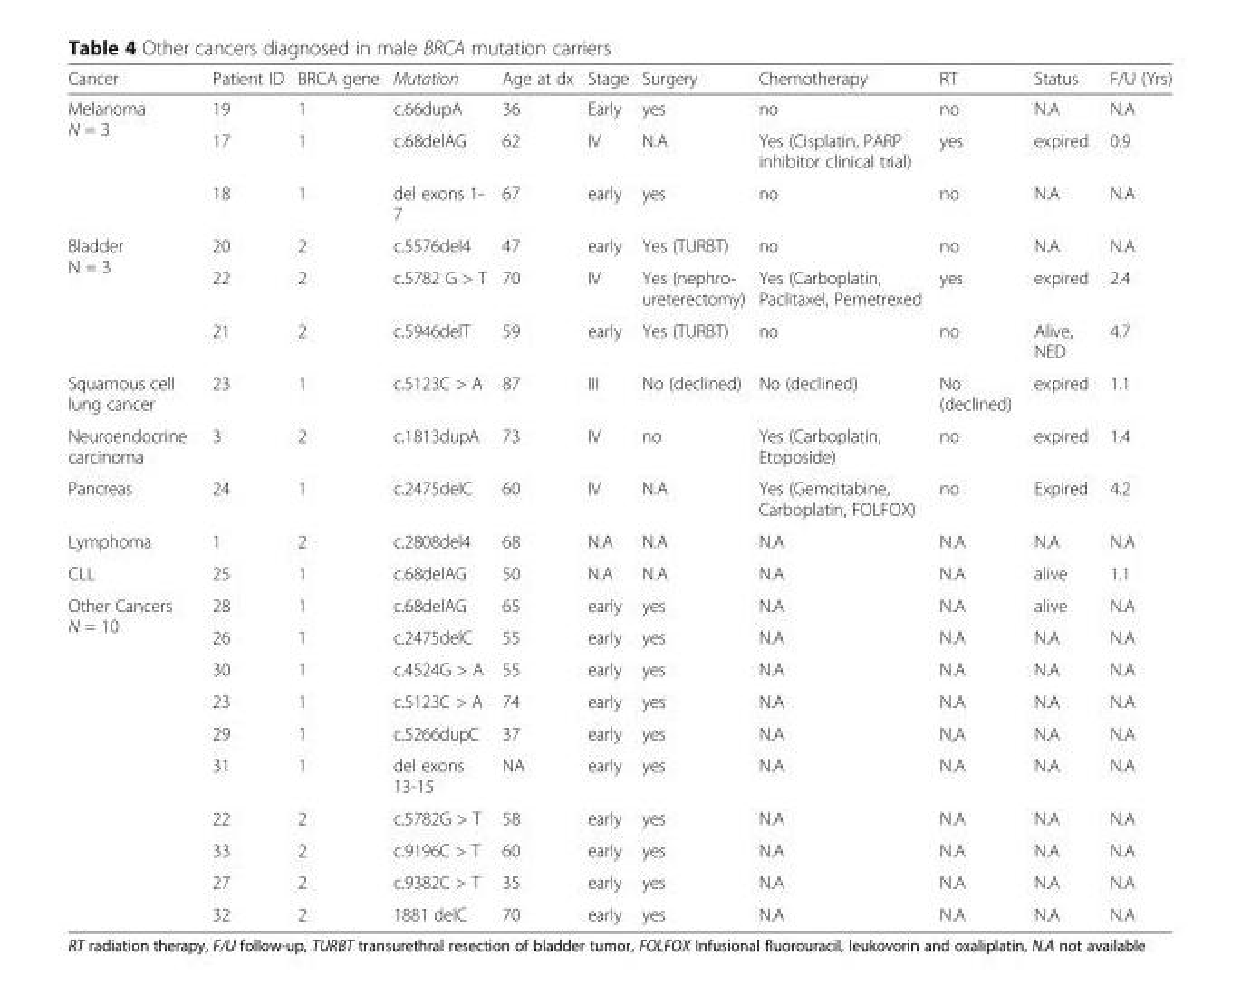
<table><thead><tr><td>Cancer</td><td>Patient ID</td><td>BRCA gene</td><td>Mutation</td><td>Age at dx</td><td>Stage</td><td>Surgery</td><td>Chemotherapy</td><td>RT</td><td>Status</td><td>F/U (Yrs)</td></tr></thead><tbody><tr><td rowspan="3">Melanoma N = 3</td><td>19</td><td>1</td><td>c.66dupA</td><td>36</td><td>Early</td><td>yes</td><td>no</td><td>no</td><td>N.A</td><td>N.A</td></tr><tr><td>17</td><td>1</td><td>c.68delAG</td><td>62</td><td>IV</td><td>N.A</td><td>Yes (Cisplatin, PARP inhibitor clinical trial)</td><td>yes</td><td>expired</td><td>0.9</td></tr><tr><td>18</td><td>1</td><td>del exons 1- 7</td><td>67</td><td>early</td><td>yes</td><td>no</td><td>no</td><td>N.A</td><td>N.A</td></tr><tr><td rowspan="3">Bladder N = 3</td><td>20</td><td>2</td><td>c.5576del4</td><td>47</td><td>early</td><td>Yes (TURBT)</td><td>no</td><td>no</td><td>N.A</td><td>N.A</td></tr><tr><td>22</td><td>2</td><td>c.5782 G &gt; T</td><td>70</td><td>IV</td><td>Yes (nephro- ureterectomy)</td><td>Yes (Carboplatin, Paclitaxel, Pemetrexed</td><td>yes</td><td>expired</td><td>2.4</td></tr><tr><td>21</td><td>2</td><td>c.5946delT</td><td>59</td><td>early</td><td>Yes (TURBT)</td><td>no</td><td>no</td><td>Alive, NED</td><td>4.7</td></tr><tr><td>Squamous cell lung cancer</td><td>23</td><td>1</td><td>c.5123C &gt; A</td><td>87</td><td>III</td><td>No (declined)</td><td>No (declined)</td><td>No (declined)</td><td>expired</td><td>1.1</td></tr><tr><td>Neuroendocrine carcinoma</td><td>3</td><td>2</td><td>c.1813dupA</td><td>73</td><td>IV</td><td>no</td><td>Yes (Carboplatin, Etoposide)</td><td>no</td><td>expired</td><td>1.4</td></tr><tr><td>Pancreas</td><td>24</td><td>1</td><td>c.2475delC</td><td>60</td><td>IV</td><td>N.A</td><td>Yes (Gemcitabine, Carboplatin, FOLFOX)</td><td>no</td><td>Expired</td><td>4.2</td></tr><tr><td>Lymphoma</td><td>1</td><td>2</td><td>c.2808del4</td><td>68</td><td>N.A</td><td>N.A</td><td>N.A</td><td>N.A</td><td>N.A</td><td>N.A</td></tr><tr><td>CLL</td><td>25</td><td>1</td><td>c.68delAG</td><td>50</td><td>N.A</td><td>N.A</td><td>N.A</td><td>N.A</td><td>alive</td><td>1.1</td></tr><tr><td rowspan="10">Other Cancers N = 10</td><td>28</td><td>1</td><td>c.68delAG</td><td>65</td><td>early</td><td>yes</td><td>N.A</td><td>N.A</td><td>alive</td><td>N.A</td></tr><tr><td>26</td><td>1</td><td>c.2475delC</td><td>55</td><td>early</td><td>yes</td><td>N.A</td><td>N.A</td><td>N.A</td><td>N.A</td></tr><tr><td>30</td><td>1</td><td>c.4524G &gt; A</td><td>55</td><td>early</td><td>yes</td><td>N.A</td><td>N.A</td><td>N.A</td><td>N.A</td></tr><tr><td>23</td><td>1</td><td>c.5123C &gt; A</td><td>74</td><td>early</td><td>yes</td><td>N.A</td><td>N.A</td><td>N.A</td><td>N.A</td></tr><tr><td>29</td><td>1</td><td>c.5266dupC</td><td>37</td><td>early</td><td>yes</td><td>N.A</td><td>N,A</td><td>N.A</td><td>N.A</td></tr><tr><td>31</td><td>1</td><td>del exons 13-15</td><td>NA</td><td>early</td><td>yes</td><td>N.A</td><td>N.A</td><td>N.A</td><td>N.A</td></tr><tr><td>22</td><td>2</td><td>c.5782G &gt; T</td><td>58</td><td>early</td><td>yes</td><td>N.A</td><td>N.A</td><td>N.A</td><td>N.A</td></tr><tr><td>33</td><td>2</td><td>c.9196C &gt; T</td><td>60</td><td>early</td><td>yes</td><td>N.A</td><td>N.A</td><td>N.A</td><td>N.A</td></tr><tr><td>27</td><td>2</td><td>c.9382C &gt; T</td><td>35</td><td>early</td><td>yes</td><td>N.A</td><td>N.A</td><td>N.A</td><td>N.A</td></tr><tr><td>32</td><td>2</td><td>1881 delC</td><td>70</td><td>early</td><td>yes</td><td>N.A</td><td>N.A</td><td>N.A</td><td>N.A</td></tr></tbody></table>